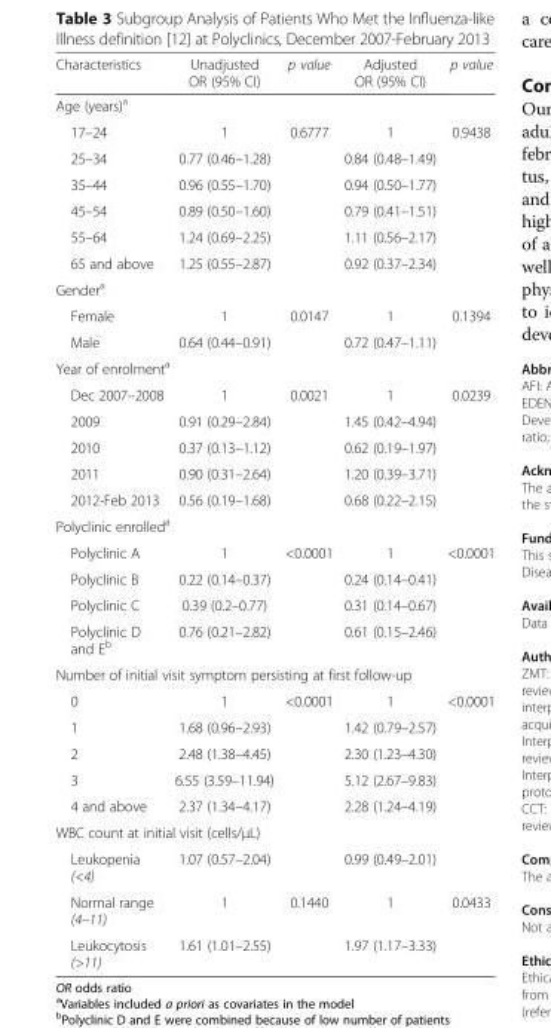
<table><thead><tr><td>Characteristics</td><td>Unadjusted OR (95% CI)</td><td>p value</td><td>Adjusted OR (95% CI)</td><td>p value</td></tr></thead><tbody><tr><td colspan="5">Age (years)<sup>a</sup></td></tr><tr><td>17–24</td><td>1</td><td rowspan="6">0.6777</td><td>1</td><td rowspan="6">0.9438</td></tr><tr><td>25–34</td><td>0.77 (0.46–1.28)</td><td>0.84 (0.48–1.49)</td></tr><tr><td>35–44</td><td>0.96 (0.55–1.70)</td><td>0.94 (0.50–1.77)</td></tr><tr><td>45–54</td><td>0.89 (0.50–1.60)</td><td>0.79 (0.41–1.51)</td></tr><tr><td>55–64</td><td>1.24 (0.69–2.25)</td><td>1.11 (0.56–2.17)</td></tr><tr><td>65 and above</td><td>1.25 (0.55–2.87)</td><td>0.92 (0.37–2.34)</td></tr><tr><td colspan="5">Gender<sup>a</sup></td></tr><tr><td>Female</td><td>1</td><td rowspan="2">0.0147</td><td>1</td><td rowspan="2">0.1394</td></tr><tr><td>Male</td><td>0.64 (0.44–0.91)</td><td>0.72 (0.47–1.11)</td></tr><tr><td colspan="5">Year of enrolment<sup>a</sup></td></tr><tr><td>Dec 2007–2008</td><td>1</td><td rowspan="5">0.0021</td><td>1</td><td rowspan="5">0.0239</td></tr><tr><td>2009</td><td>0.91 (0.29–2.84)</td><td>1.45 (0.42–4.94)</td></tr><tr><td>2010</td><td>0.37 (0.13–1.12)</td><td>0.62 (0.19–1.97)</td></tr><tr><td>2011</td><td>0.90 (0.31–2.64)</td><td>1.20 (0.39–3.71)</td></tr><tr><td>2012-Feb 2013</td><td>0.56 (0.19–1.68)</td><td>0.68 (0.22–2.15)</td></tr><tr><td colspan="5">Polyclinic enrolled<sup>a</sup></td></tr><tr><td>Polyclinic A</td><td>1</td><td rowspan="4">&lt;0.0001</td><td>1</td><td rowspan="4">&lt;0.0001</td></tr><tr><td>Polyclinic B</td><td>0.22 (0.14–0.37)</td><td>0.24 (0.14–0.41)</td></tr><tr><td>Polyclinic C</td><td>0.39 (0.2–0.77)</td><td>0.31 (0.14–0.67)</td></tr><tr><td>Polyclinic D and E<sup>b</sup></td><td>0.76 (0.21–2.82)</td><td>0.61 (0.15–2.46)</td></tr><tr><td colspan="5">Number of initial visit symptom persisting at first follow-up</td></tr><tr><td>0</td><td>1</td><td rowspan="5">&lt;0.0001</td><td>1</td><td rowspan="5">&lt;0.0001</td></tr><tr><td>1</td><td>1.68 (0.96–2.93)</td><td>1.42 (0.79–2.57)</td></tr><tr><td>2</td><td>2.48 (1.38–4.45)</td><td>2.30 (1.23–4.30)</td></tr><tr><td>3</td><td>6.55 (3.59–11.94)</td><td>5.12 (2.67–9.83)</td></tr><tr><td>4 and above</td><td>2.37 (1.34–4.17)</td><td>2.28 (1.24–4.19)</td></tr><tr><td colspan="5">WBC count at initial visit (cells/μL)</td></tr><tr><td>Leukopenia (&lt;4)</td><td>1.07 (0.57–2.04)</td><td></td><td>0.99 (0.49–2.01)</td><td></td></tr><tr><td>Normal range (4–11)</td><td>1</td><td>0.1440</td><td>1</td><td>0.0433</td></tr><tr><td>Leukocytosis (&gt;11)</td><td>1.61 (1.01–2.55)</td><td></td><td>1.97 (1.17–3.33)</td><td></td></tr></tbody></table>